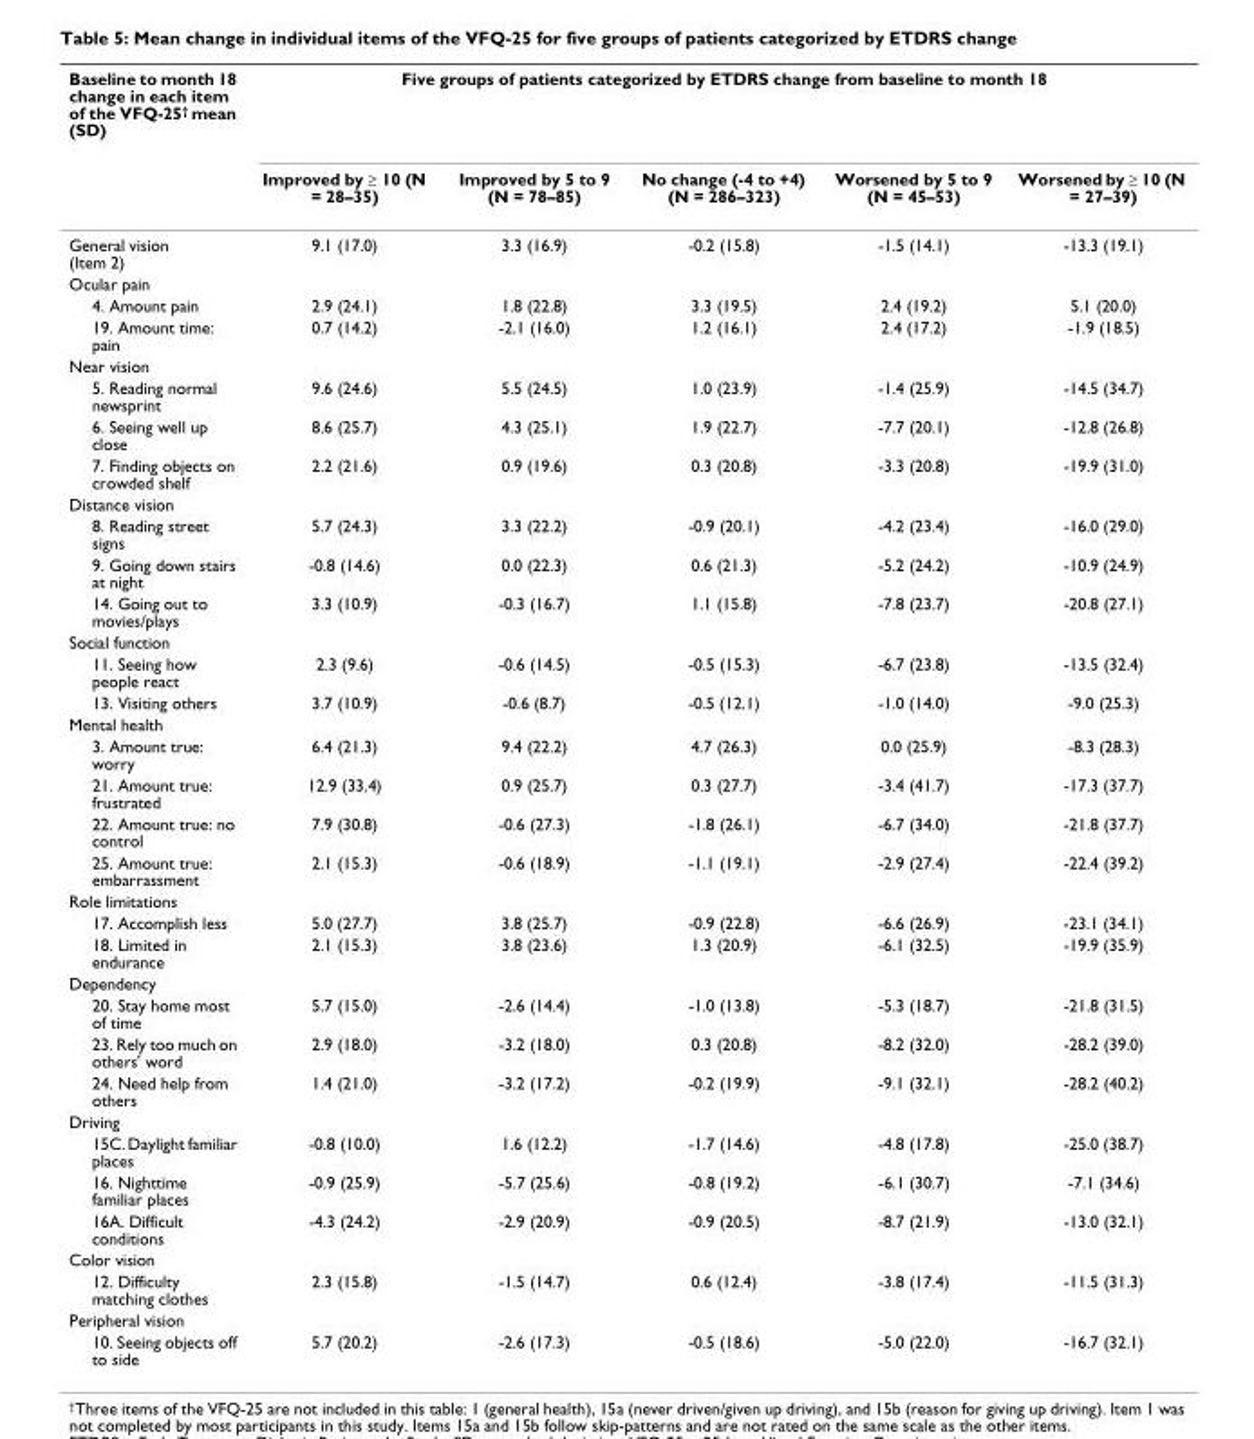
<table><thead><tr><td rowspan="2">Baseline to month 18 change in each item of the VFQ-25<sup>†</sup> mean (SD)</td><td colspan="5">Five groups of patients categorized by ETDRS change from baseline to month 18</td></tr><tr><td>Improved by ≥ 10 (N = 28–35)</td><td>Improved by 5 to 9 (N = 78–85)</td><td>No change (-4 to +4) (N = 286–323)</td><td>Worsened by 5 to 9 (N = 45–53)</td><td>Worsened by ≥ 10 (N = 27–39)</td></tr></thead><tbody><tr><td>General vision (Item 2)</td><td>9.1 (17.0)</td><td>3.3 (16.9)</td><td>-0.2 (15.8)</td><td>-1.5 (14.1)</td><td>-13.3 (19.1)</td></tr><tr><td colspan="6">Ocular pain</td></tr><tr><td>4. Amount pain</td><td>2.9 (24.1)</td><td>1.8 (22.8)</td><td>3.3 (19.5)</td><td>2.4 (19.2)</td><td>5.1 (20.0)</td></tr><tr><td>19. Amount time: pain</td><td>0.7 (14.2)</td><td>-2.1 (16.0)</td><td>1.2 (16.1)</td><td>2.4 (17.2)</td><td>-1.9 (18.5)</td></tr><tr><td colspan="6">Near vision</td></tr><tr><td>5. Reading normal newsprint</td><td>9.6 (24.6)</td><td>5.5 (24.5)</td><td>1.0 (23.9)</td><td>-1.4 (25.9)</td><td>-14.5 (34.7)</td></tr><tr><td>6. Seeing well up close</td><td>8.6 (25.7)</td><td>4.3 (25.1)</td><td>1.9 (22.7)</td><td>-7.7 (20.1)</td><td>-12.8 (26.8)</td></tr><tr><td>7. Finding objects on crowded shelf</td><td>2.2 (21.6)</td><td>0.9 (19.6)</td><td>0.3 (20.8)</td><td>-3.3 (20.8)</td><td>-19.9 (31.0)</td></tr><tr><td colspan="6">Distance vision</td></tr><tr><td>8. Reading street signs</td><td>5.7 (24.3)</td><td>3.3 (22.2)</td><td>-0.9 (20.1)</td><td>-4.2 (23.4)</td><td>-16.0 (29.0)</td></tr><tr><td>9. Going down stairs at night</td><td>-0.8 (14.6)</td><td>0.0 (22.3)</td><td>0.6 (21.3)</td><td>-5.2 (24.2)</td><td>-10.9 (24.9)</td></tr><tr><td>14. Going out to movies/plays</td><td>3.3 (10.9)</td><td>-0.3 (16.7)</td><td>1.1 (15.8)</td><td>-7.8 (23.7)</td><td>-20.8 (27.1)</td></tr><tr><td colspan="6">Social function</td></tr><tr><td>11. Seeing how people react</td><td>2.3 (9.6)</td><td>-0.6 (14.5)</td><td>-0.5 (15.3)</td><td>-6.7 (23.8)</td><td>-13.5 (32.4)</td></tr><tr><td>13. Visiting others</td><td>3.7 (10.9)</td><td>-0.6 (8.7)</td><td>-0.5 (12.1)</td><td>-1.0 (14.0)</td><td>-9.0 (25.3)</td></tr><tr><td colspan="6">Mental health</td></tr><tr><td>3. Amount true: worry</td><td>6.4 (21.3)</td><td>9.4 (22.2)</td><td>4.7 (26.3)</td><td>0.0 (25.9)</td><td>-8.3 (28.3)</td></tr><tr><td>21. Amount true: frustrated</td><td>12.9 (33.4)</td><td>0.9 (25.7)</td><td>0.3 (27.7)</td><td>-3.4 (41.7)</td><td>-17.3 (37.7)</td></tr><tr><td>22. Amount true: no control</td><td>7.9 (30.8)</td><td>-0.6 (27.3)</td><td>-1.8 (26.1)</td><td>-6.7 (34.0)</td><td>-21.8 (37.7)</td></tr><tr><td>25. Amount true: embarrassment</td><td>2.1 (15.3)</td><td>-0.6 (18.9)</td><td>-1.1 (19.1)</td><td>-2.9 (27.4)</td><td>-22.4 (39.2)</td></tr><tr><td colspan="6">Role limitations</td></tr><tr><td>17. Accomplish less</td><td>5.0 (27.7)</td><td>3.8 (25.7)</td><td>-0.9 (22.8)</td><td>-6.6 (26.9)</td><td>-23.1 (34.1)</td></tr><tr><td>18. Limited in endurance</td><td>2.1 (15.3)</td><td>3.8 (23.6)</td><td>1.3 (20.9)</td><td>-6.1 (32.5)</td><td>-19.9 (35.9)</td></tr><tr><td colspan="6">Dependency</td></tr><tr><td>20. Stay home most of time</td><td>5.7 (15.0)</td><td>-2.6 (14.4)</td><td>-1.0 (13.8)</td><td>-5.3 (18.7)</td><td>-21.8 (31.5)</td></tr><tr><td>23. Rely too much on others&#x27; word</td><td>2.9 (18.0)</td><td>-3.2 (18.0)</td><td>0.3 (20.8)</td><td>-8.2 (32.0)</td><td>-28.2 (39.0)</td></tr><tr><td>24. Need help from others</td><td>1.4 (21.0)</td><td>-3.2 (17.2)</td><td>-0.2 (19.9)</td><td>-9.1 (32.1)</td><td>-28.2 (40.2)</td></tr><tr><td colspan="6">Driving</td></tr><tr><td>15C. Daylight familiar places</td><td>-0.8 (10.0)</td><td>1.6 (12.2)</td><td>-1.7 (14.6)</td><td>-4.8 (17.8)</td><td>-25.0 (38.7)</td></tr><tr><td>16. Nighttime familiar places</td><td>-0.9 (25.9)</td><td>-5.7 (25.6)</td><td>-0.8 (19.2)</td><td>-6.1 (30.7)</td><td>-7.1 (34.6)</td></tr><tr><td>16A. Difficult conditions</td><td>-4.3 (24.2)</td><td>-2.9 (20.9)</td><td>-0.9 (20.5)</td><td>-8.7 (21.9)</td><td>-13.0 (32.1)</td></tr><tr><td colspan="6">Color vision</td></tr><tr><td>12. Difficulty matching clothes</td><td>2.3 (15.8)</td><td>-1.5 (14.7)</td><td>0.6 (12.4)</td><td>-3.8 (17.4)</td><td>-11.5 (31.3)</td></tr><tr><td colspan="6">Peripheral vision</td></tr><tr><td>10. Seeing objects off to side</td><td>5.7 (20.2)</td><td>-2.6 (17.3)</td><td>-0.5 (18.6)</td><td>-5.0 (22.0)</td><td>-16.7 (32.1)</td></tr></tbody></table>